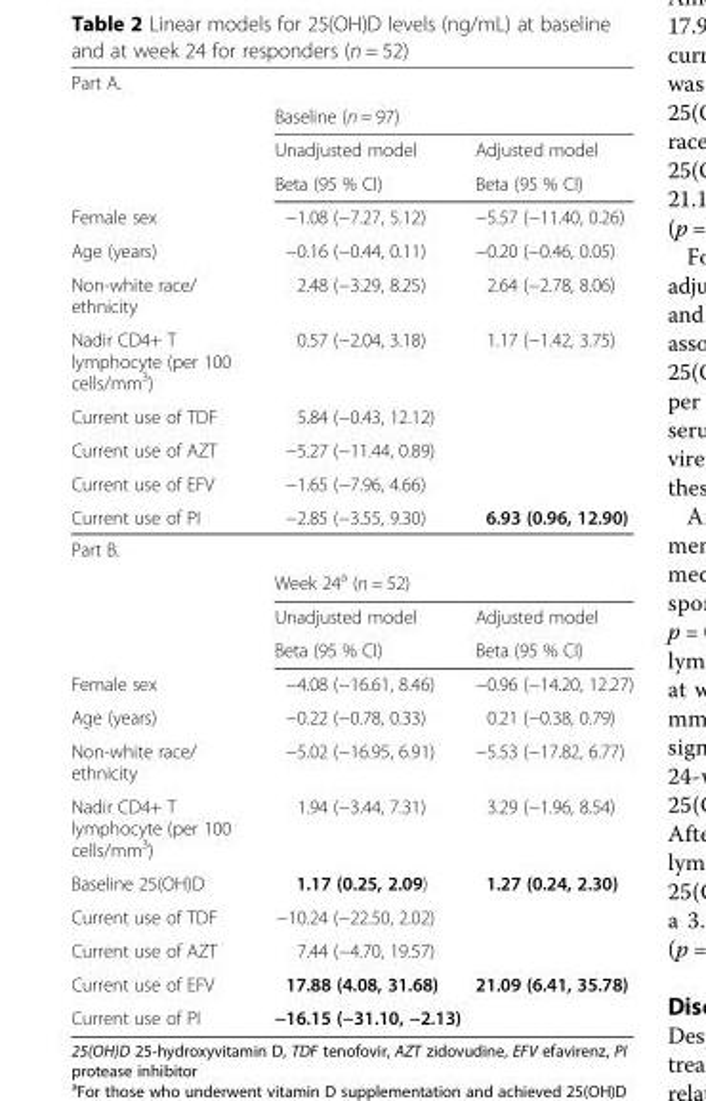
<table><tbody><tr><td colspan="3">Part A.</td></tr><tr><td></td><td colspan="2">Baseline (n = 97)</td></tr><tr><td></td><td>Unadjusted model</td><td>Adjusted model</td></tr><tr><td></td><td>Beta (95 % CI)</td><td>Beta (95 % CI)</td></tr><tr><td>Female sex</td><td>−1.08 (−7.27, 5.12)</td><td>−5.57 (−11.40, 0.26)</td></tr><tr><td>Age (years)</td><td>−0.16 (−0.44, 0.11)</td><td>−0.20 (−0.46, 0.05)</td></tr><tr><td>Non-white race/ ethnicity</td><td>2.48 (−3.29, 8.25)</td><td>2.64 (−2.78, 8.06)</td></tr><tr><td>Nadir CD4+ T lymphocyte (per 100 cells/mm<sup>3</sup>)</td><td>0.57 (−2.04, 3.18)</td><td>1.17 (−1.42, 3.75)</td></tr><tr><td>Current use of TDF</td><td>5.84 (−0.43, 12.12)</td><td></td></tr><tr><td>Current use of AZT</td><td>−5.27 (−11.44, 0.89)</td><td></td></tr><tr><td>Current use of EFV</td><td>−1.65 (−7.96, 4.66)</td><td></td></tr><tr><td>Current use of PI</td><td>−2.85 (−3.55, 9.30)</td><td>6.93 (0.96, 12.90)</td></tr><tr><td colspan="3">Part B.</td></tr><tr><td></td><td colspan="2">Week 24<sup>a</sup> (n = 52)</td></tr><tr><td></td><td>Unadjusted model</td><td>Adjusted model</td></tr><tr><td></td><td>Beta (95 % CI)</td><td>Beta (95 % CI)</td></tr><tr><td>Female sex</td><td>−4.08 (−16.61, 8.46)</td><td>−0.96 (−14.20, 12.27)</td></tr><tr><td>Age (years)</td><td>−0.22 (−0.78, 0.33)</td><td>0.21 (−0.38, 0.79)</td></tr><tr><td>Non-white race/ ethnicity</td><td>−5.02 (−16.95, 6.91)</td><td>−5.53 (−17.82, 6.77)</td></tr><tr><td>Nadir CD4+ T lymphocyte (per 100 cells/mm<sup>3</sup>)</td><td>1.94 (−3.44, 7.31)</td><td>3.29 (−1.96, 8.54)</td></tr><tr><td>Baseline 25(OH)D</td><td>1.17 (0.25, 2.09)</td><td>1.27 (0.24, 2.30)</td></tr><tr><td>Current use of TDF</td><td>−10.24 (−22.50, 2.02)</td><td></td></tr><tr><td>Current use of AZT</td><td>7.44 (−4.70, 19.57)</td><td></td></tr><tr><td>Current use of EFV</td><td>17.88 (4.08, 31.68)</td><td>21.09 (6.41, 35.78)</td></tr><tr><td>Current use of PI</td><td>−16.15 (−31.10, −2.13)</td><td></td></tr></tbody></table>